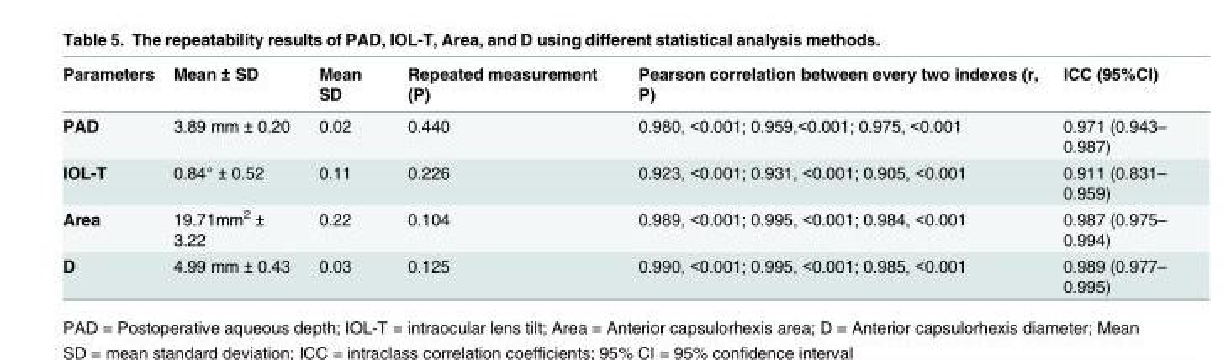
<table><thead><tr><td>Parameters</td><td>Mean ± SD</td><td>Mean SD</td><td>Repeated measurement (P)</td><td>Pearson correlation between every two indexes (r, P)</td><td>ICC (95%CI)</td></tr></thead><tbody><tr><td>PAD</td><td>3.89 mm ± 0.20</td><td>0.02</td><td>0.440</td><td>0.980, &lt;0.001; 0.959,&lt;0.001; 0.975, &lt;0.001</td><td>0.971 (0.943– 0.987)</td></tr><tr><td>IOL-T</td><td>0.84° ± 0.52</td><td>0.11</td><td>0.226</td><td>0.923, &lt;0.001; 0.931, &lt;0.001; 0.905, &lt;0.001</td><td>0.911 (0.831– 0.959)</td></tr><tr><td>Area</td><td>19.71mm<sup>2</sup> ± 3.22</td><td>0.22</td><td>0.104</td><td>0.989, &lt;0.001; 0.995, &lt;0.001; 0.984, &lt;0.001</td><td>0.987 (0.975– 0.994)</td></tr><tr><td>D</td><td>4.99 mm ± 0.43</td><td>0.03</td><td>0.125</td><td>0.990, &lt;0.001; 0.995, &lt;0.001; 0.985, &lt;0.001</td><td>0.989 (0.977– 0.995)</td></tr></tbody></table>